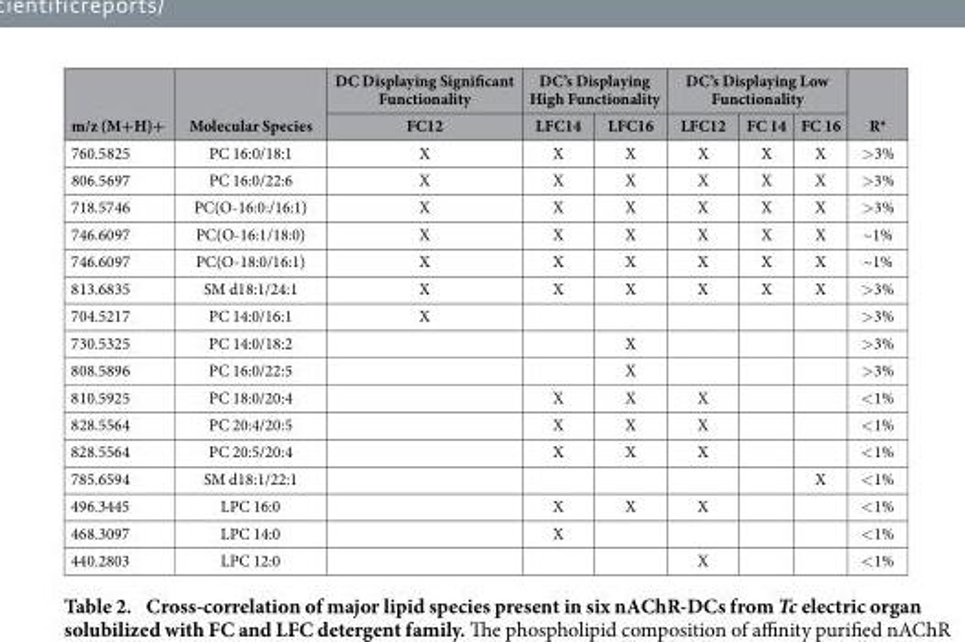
<table><thead><tr><td rowspan="2">m/z (M+H)+</td><td rowspan="2">Molecular Species</td><td rowspan="2">DC Displaying Significant Functionality FC12</td><td colspan="2">DC’s Displaying High Functionality</td><td colspan="3">DC’s Displaying Low Functionality</td><td rowspan="2">R*</td></tr><tr><td>LFC14</td><td>LFC16</td><td>LFC12</td><td>FC 14</td><td>FC 16</td></tr></thead><tbody><tr><td>760.5825</td><td>PC 16:0/18:1</td><td>X</td><td>X</td><td>X</td><td>X</td><td>X</td><td>X</td><td>&gt; 3%</td></tr><tr><td>806.5697</td><td>PC 16:0/22:6</td><td>X</td><td>X</td><td>X</td><td>X</td><td>X</td><td>X</td><td>&gt; 3%</td></tr><tr><td>718.5746</td><td>PC(O-16:0:/16:1)</td><td>X</td><td>X</td><td>X</td><td>X</td><td>X</td><td>X</td><td>&gt; 3%</td></tr><tr><td>746.6097</td><td>PC(O-16:1/18:0)</td><td>X</td><td>X</td><td>X</td><td>X</td><td>X</td><td>X</td><td>~1%</td></tr><tr><td>746.6097</td><td>PC(O-18:0/16:1)</td><td>X</td><td>X</td><td>X</td><td>X</td><td>X</td><td>X</td><td>~1%</td></tr><tr><td>813.6835</td><td>SM d18:1/24:1</td><td>X</td><td>X</td><td>X</td><td>X</td><td>X</td><td>X</td><td>&gt; 3%</td></tr><tr><td>704.5217</td><td>PC 14:0/16:1</td><td>X</td><td></td><td></td><td></td><td></td><td></td><td>&gt; 3%</td></tr><tr><td>730.5325</td><td>PC 14:0/18:2</td><td></td><td></td><td>X</td><td></td><td></td><td></td><td>&gt; 3%</td></tr><tr><td>808.5896</td><td>PC 16:0/22:5</td><td></td><td></td><td>X</td><td></td><td></td><td></td><td>&gt; 3%</td></tr><tr><td>810.5925</td><td>PC 18:0/20:4</td><td></td><td>X</td><td>X</td><td>X</td><td></td><td></td><td>&lt; 1%</td></tr><tr><td>828.5564</td><td>PC 20:4/20:5</td><td></td><td>X</td><td>X</td><td>X</td><td></td><td></td><td>&lt; 1%</td></tr><tr><td>828.5564</td><td>PC 20:5/20:4</td><td></td><td>X</td><td>X</td><td>X</td><td></td><td></td><td>&lt; 1%</td></tr><tr><td>785.6594</td><td>SM d18:1/22:1</td><td></td><td></td><td></td><td></td><td></td><td>X</td><td>&lt; 1%</td></tr><tr><td>496.3445</td><td>LPC 16:0</td><td></td><td>X</td><td>X</td><td>X</td><td></td><td></td><td>&lt; 1%</td></tr><tr><td>468.3097</td><td>LPC 14:0</td><td></td><td>X</td><td></td><td></td><td></td><td></td><td>&lt; 1%</td></tr><tr><td>440.2803</td><td>LPC 12:0</td><td></td><td></td><td></td><td>X</td><td></td><td></td><td>&lt; 1%</td></tr></tbody></table>